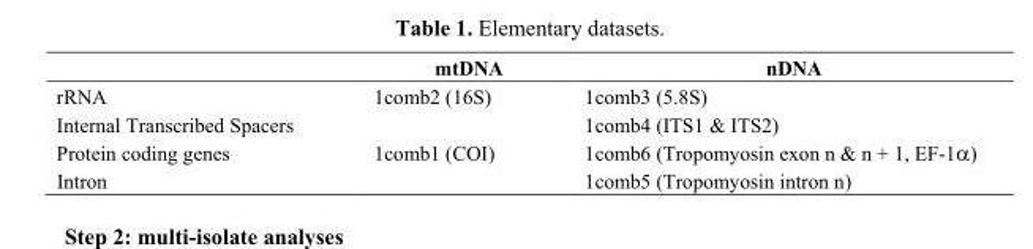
<table><thead><tr><td></td><td>mtDNA</td><td>nDNA</td></tr></thead><tbody><tr><td>rRNA</td><td>1comb2 (16S)</td><td>1comb3 (5.8S)</td></tr><tr><td>Internal Transcribed Spacers</td><td></td><td>1comb4 (ITS1 &amp; ITS2)</td></tr><tr><td>Protein coding genes</td><td>1comb1 (COI)</td><td>1comb6 (Tropomyosin exon n &amp; n + 1, EF-1α)</td></tr><tr><td>Intron</td><td></td><td>1comb5 (Tropomyosin intron n)</td></tr></tbody></table>